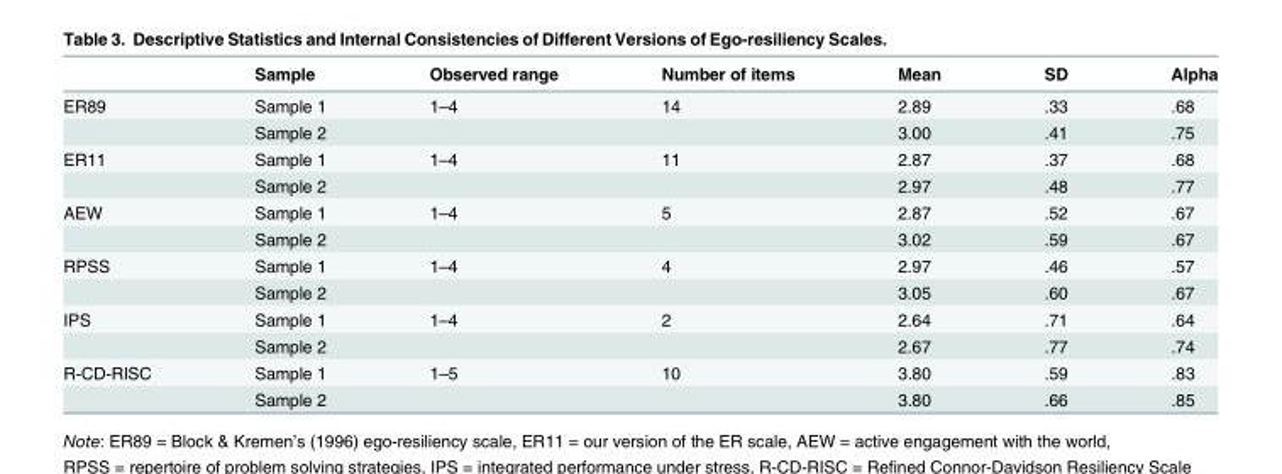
<table><thead><tr><td></td><td>Sample</td><td>Observed range</td><td>Number of items</td><td>Mean</td><td>SD</td><td>Alpha</td></tr></thead><tbody><tr><td rowspan="2">ER89</td><td>Sample 1</td><td>1–4</td><td>14</td><td>2.89</td><td>.33</td><td>.68</td></tr><tr><td>Sample 2</td><td></td><td></td><td>3.00</td><td>.41</td><td>.75</td></tr><tr><td rowspan="2">ER11</td><td>Sample 1</td><td>1–4</td><td>11</td><td>2.87</td><td>.37</td><td>.68</td></tr><tr><td>Sample 2</td><td></td><td></td><td>2.97</td><td>.48</td><td>.77</td></tr><tr><td rowspan="2">AEW</td><td>Sample 1</td><td>1–4</td><td>5</td><td>2.87</td><td>.52</td><td>.67</td></tr><tr><td>Sample 2</td><td></td><td></td><td>3.02</td><td>.59</td><td>.67</td></tr><tr><td rowspan="2">RPSS</td><td>Sample 1</td><td>1–4</td><td>4</td><td>2.97</td><td>.46</td><td>.57</td></tr><tr><td>Sample 2</td><td></td><td></td><td>3.05</td><td>.60</td><td>.67</td></tr><tr><td rowspan="2">IPS</td><td>Sample 1</td><td>1–4</td><td>2</td><td>2.64</td><td>.71</td><td>.64</td></tr><tr><td>Sample 2</td><td></td><td></td><td>2.67</td><td>.77</td><td>.74</td></tr><tr><td rowspan="2">R-CD-RISC</td><td>Sample 1</td><td>1–5</td><td>10</td><td>3.80</td><td>.59</td><td>.83</td></tr><tr><td>Sample 2</td><td></td><td></td><td>3.80</td><td>.66</td><td>.85</td></tr></tbody></table>